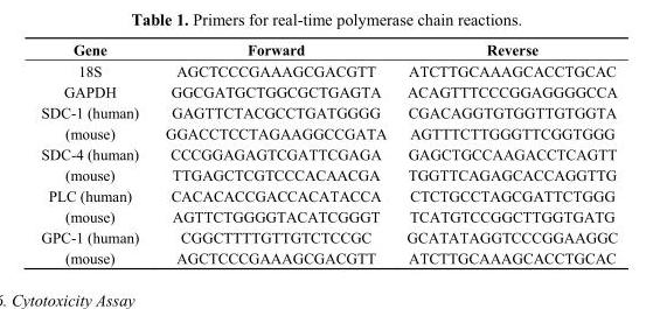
<table><thead><tr><td>Gene</td><td>Forward</td><td>Reverse</td></tr></thead><tbody><tr><td>18S</td><td>AGCTCCCGAAAGCGACGTT</td><td>ATCTTGCAAAGCACCTGCAC</td></tr><tr><td>GAPDH</td><td>GGCGATGCTGGCGCTGAGTA</td><td>ACAGTTTCCCGGAGGGGCCA</td></tr><tr><td>SDC-1 (human)</td><td>GAGTTCTACGCCTGATGGGG</td><td>CGACAGGTGTGGTTGTGGTA</td></tr><tr><td>(mouse)</td><td>GGACCTCCTAGAAGGCCGATA</td><td>AGTTTCTTGGGTTCGGTGGG</td></tr><tr><td>SDC-4 (human)</td><td>CCCGGAGAGTCGATTCGAGA</td><td>GAGCTGCCAAGACCTCAGTT</td></tr><tr><td>(mouse)</td><td>TTGAGCTCGTCCCACAACGA</td><td>TGGTTCAGAGCACCAGGTTG</td></tr><tr><td>PLC (human)</td><td>CACACACCGACCACATACCA</td><td>CTCTGCCTAGCGATTCTGGG</td></tr><tr><td>(mouse)</td><td>AGTTCTGGGGTACATCGGGT</td><td>TCATGTCCGGCTTGGTGATG</td></tr><tr><td>GPC-1 (human)</td><td>CGGCTTTTGTTGTCTCCGC</td><td>GCATATAGGTCCCGGAAGGC</td></tr><tr><td>(mouse)</td><td>AGCTCCCGAAAGCGACGTT</td><td>ATCTTGCAAAGCACCTGCAC</td></tr></tbody></table>